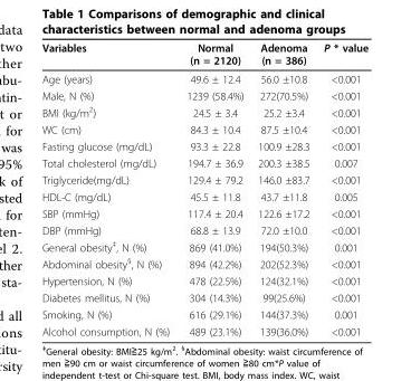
<table><thead><tr><td>Variables</td><td>Normal (n = 2120)</td><td>Adenoma (n = 386)</td><td>P * value</td></tr></thead><tbody><tr><td>Age (years)</td><td>49.6 ± 12.4</td><td>56.0 ±10.8</td><td>&lt;0.001</td></tr><tr><td>Male, N (%)</td><td>1239 (58.4%)</td><td>272(70.5%)</td><td>&lt;0.001</td></tr><tr><td>BMI (kg/m<sup>2</sup>)</td><td>24.5 ± 3.4</td><td>25.2 ±3.4</td><td>&lt;0.001</td></tr><tr><td>WC (cm)</td><td>84.3 ± 10.4</td><td>87.5 ±10.4</td><td>&lt;0.001</td></tr><tr><td>Fasting glucose (mg/dL)</td><td>93.3 ± 22.8</td><td>100.9 ±28.3</td><td>&lt;0.001</td></tr><tr><td>Total cholesterol (mg/dL)</td><td>194.7 ± 36.9</td><td>200.3 ±38.5</td><td>0.007</td></tr><tr><td>Triglyceride(mg/dL)</td><td>129.4 ± 79.2</td><td>146.0 ±83.7</td><td>&lt;0.001</td></tr><tr><td>HDL-C (mg/dL)</td><td>45.5 ± 11.8</td><td>43.7 ±11.8</td><td>0.005</td></tr><tr><td>SBP (mmHg)</td><td>117.4 ± 20.4</td><td>122.6 ±17.2</td><td>&lt;0.001</td></tr><tr><td>DBP (mmHg)</td><td>68.8 ± 13.9</td><td>72.0 ±10.0</td><td>&lt;0.001</td></tr><tr><td>General obesity<sup>‡</sup>, N (%)</td><td>869 (41.0%)</td><td>194(50.3%)</td><td>0.001</td></tr><tr><td>Abdominal obesity<sup>§</sup>, N (%)</td><td>894 (42.2%)</td><td>202(52.3%)</td><td>&lt;0.001</td></tr><tr><td>Hypertension, N (%)</td><td>478 (22.5%)</td><td>124(32.1%)</td><td>&lt;0.001</td></tr><tr><td>Diabetes mellitus, N (%)</td><td>304 (14.3%)</td><td>99(25.6%)</td><td>&lt;0.001</td></tr><tr><td>Smoking, N (%)</td><td>616 (29.1%)</td><td>144(37.3%)</td><td>0.001</td></tr><tr><td>Alcohol consumption, N (%)</td><td>489 (23.1%)</td><td>139(36.0%)</td><td>&lt;0.001</td></tr></tbody></table>